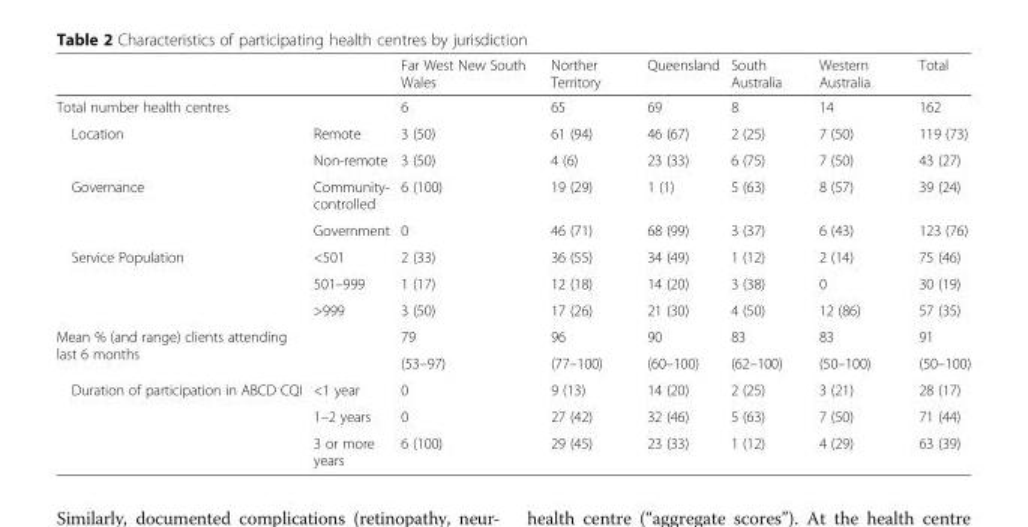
<table><thead><tr><td></td><td></td><td>Far West New South Wales</td><td>Norther Territory</td><td>Queensland</td><td>South Australia</td><td>Western Australia</td><td>Total</td></tr></thead><tbody><tr><td colspan="2">Total number health centres</td><td>6</td><td>65</td><td>69</td><td>8</td><td>14</td><td>162</td></tr><tr><td rowspan="2">Location</td><td>Remote</td><td>3 (50)</td><td>61 (94)</td><td>46 (67)</td><td>2 (25)</td><td>7 (50)</td><td>119 (73)</td></tr><tr><td>Non-remote</td><td>3 (50)</td><td>4 (6)</td><td>23 (33)</td><td>6 (75)</td><td>7 (50)</td><td>43 (27)</td></tr><tr><td rowspan="2">Governance</td><td>Community- controlled</td><td>6 (100)</td><td>19 (29)</td><td>1 (1)</td><td>5 (63)</td><td>8 (57)</td><td>39 (24)</td></tr><tr><td>Government</td><td>0</td><td>46 (71)</td><td>68 (99)</td><td>3 (37)</td><td>6 (43)</td><td>123 (76)</td></tr><tr><td rowspan="3">Service Population</td><td>&lt;501</td><td>2 (33)</td><td>36 (55)</td><td>34 (49)</td><td>1 (12)</td><td>2 (14)</td><td>75 (46)</td></tr><tr><td>501–999</td><td>1 (17)</td><td>12 (18)</td><td>14 (20)</td><td>3 (38)</td><td>0</td><td>30 (19)</td></tr><tr><td>&gt;999</td><td>3 (50)</td><td>17 (26)</td><td>21 (30)</td><td>4 (50)</td><td>12 (86)</td><td>57 (35)</td></tr><tr><td rowspan="2" colspan="2">Mean % (and range) clients attending last 6 months</td><td>79</td><td>96</td><td>90</td><td>83</td><td>83</td><td>91</td></tr><tr><td>(53–97)</td><td>(77–100)</td><td>(60–100)</td><td>(62–100)</td><td>(50–100)</td><td>(50–100)</td></tr><tr><td rowspan="3">Duration of participation in ABCD CQI</td><td>&lt;1 year</td><td>0</td><td>9 (13)</td><td>14 (20)</td><td>2 (25)</td><td>3 (21)</td><td>28 (17)</td></tr><tr><td>1–2 years</td><td>0</td><td>27 (42)</td><td>32 (46)</td><td>5 (63)</td><td>7 (50)</td><td>71 (44)</td></tr><tr><td>3 or more years</td><td>6 (100)</td><td>29 (45)</td><td>23 (33)</td><td>1 (12)</td><td>4 (29)</td><td>63 (39)</td></tr></tbody></table>